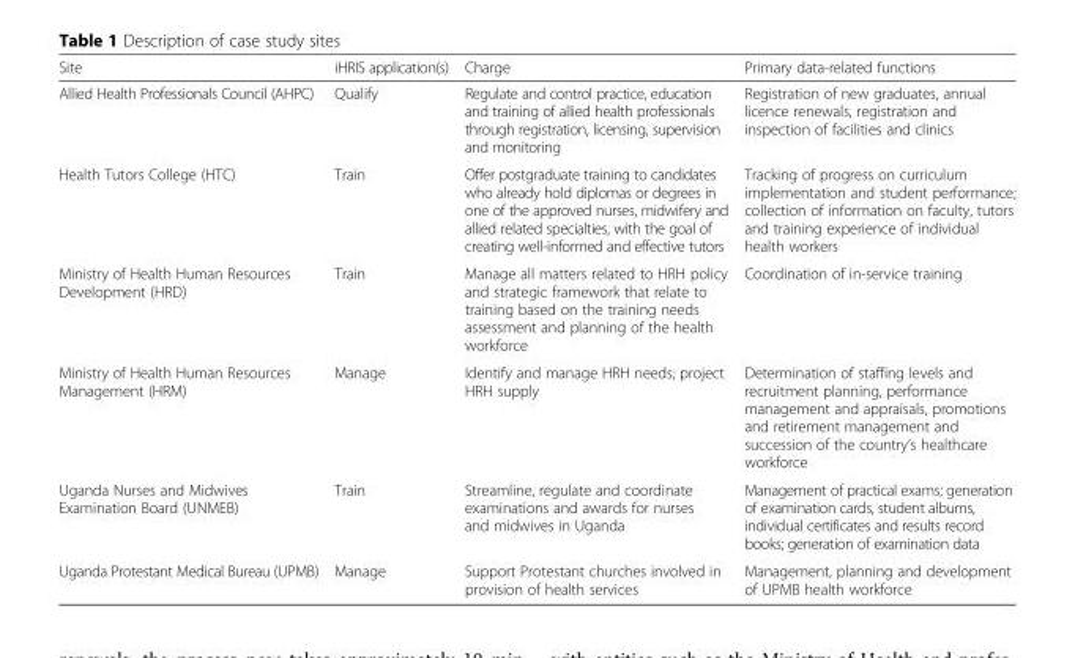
<table><thead><tr><td>Site</td><td>iHRIS application(s)</td><td>Charge</td><td>Primary data-related functions</td></tr></thead><tbody><tr><td>Allied Health Professionals Council (AHPC)</td><td>Qualify</td><td>Regulate and control practice, education and training of allied health professionals through registration, licensing, supervision and monitoring</td><td>Registration of new graduates, annual licence renewals, registration and inspection of facilities and clinics</td></tr><tr><td>Health Tutors College (HTC)</td><td>Train</td><td>Offer postgraduate training to candidates who already hold diplomas or degrees in one of the approved nurses, midwifery and allied related specialties, with the goal of creating well-informed and effective tutors</td><td>Tracking of progress on curriculum implementation and student performance; collection of information on faculty, tutors and training experience of individual health workers</td></tr><tr><td>Ministry of Health Human Resources Development (HRD)</td><td>Train</td><td>Manage all matters related to HRH policy and strategic framework that relate to training based on the training needs assessment and planning of the health workforce</td><td>Coordination of in-service training</td></tr><tr><td>Ministry of Health Human Resources Management (HRM)</td><td>Manage</td><td>Identify and manage HRH needs; project HRH supply</td><td>Determination of staffing levels and recruitment planning, performance management and appraisals, promotions and retirement management and succession of the country’s healthcare workforce</td></tr><tr><td>Uganda Nurses and Midwives Examination Board (UNMEB)</td><td>Train</td><td>Streamline, regulate and coordinate examinations and awards for nurses and midwives in Uganda</td><td>Management of practical exams; generation of examination cards, student albums, individual certificates and results record books; generation of examination data</td></tr><tr><td>Uganda Protestant Medical Bureau (UPMB)</td><td>Manage</td><td>Support Protestant churches involved in provision of health services</td><td>Management, planning and development of UPMB health workforce</td></tr></tbody></table>